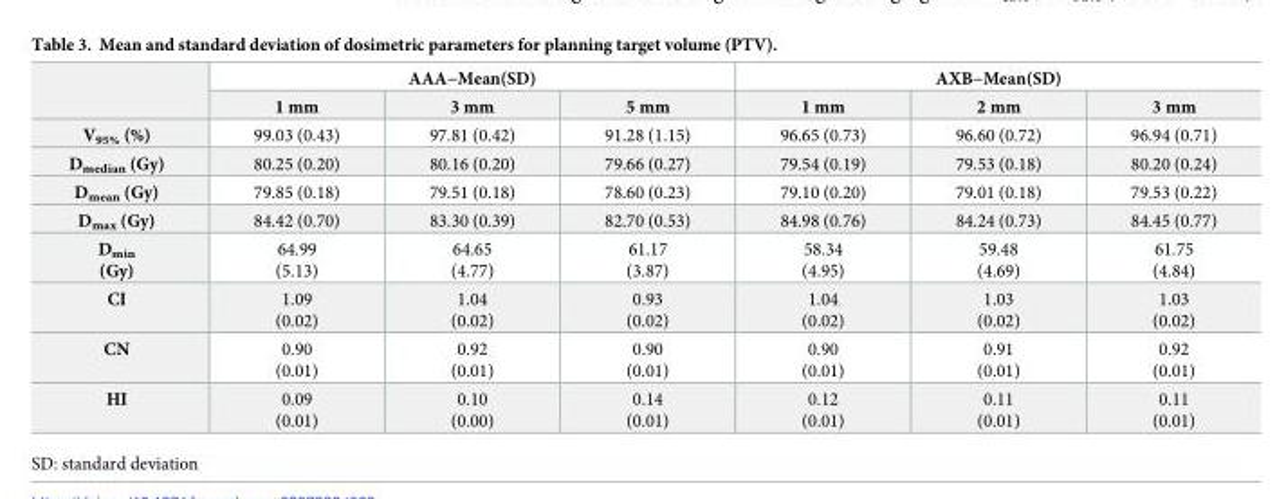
<table><thead><tr><td rowspan="2"></td><td colspan="3">AAA−Mean(SD)</td><td colspan="3">AXB−Mean(SD)</td></tr><tr><td>1 mm</td><td>3 mm</td><td>5 mm</td><td>1 mm</td><td>2 mm</td><td>3 mm</td></tr></thead><tbody><tr><td>V<sub>95%</sub> (%)</td><td>99.03 (0.43)</td><td>97.81 (0.42)</td><td>91.28 (1.15)</td><td>96.65 (0.73)</td><td>96.60 (0.72)</td><td>96.94 (0.71)</td></tr><tr><td>D<sub>median</sub> (Gy)</td><td>80.25 (0.20)</td><td>80.16 (0.20)</td><td>79.66 (0.27)</td><td>79.54 (0.19)</td><td>79.53 (0.18)</td><td>80.20 (0.24)</td></tr><tr><td>D<sub>mean</sub> (Gy)</td><td>79.85 (0.18)</td><td>79.51 (0.18)</td><td>78.60 (0.23)</td><td>79.10 (0.20)</td><td>79.01 (0.18)</td><td>79.53 (0.22)</td></tr><tr><td>D<sub>max</sub> (Gy)</td><td>84.42 (0.70)</td><td>83.30 (0.39)</td><td>82.70 (0.53)</td><td>84.98 (0.76)</td><td>84.24 (0.73)</td><td>84.45 (0.77)</td></tr><tr><td>D<sub>min</sub> (Gy)</td><td>64.99 (5.13)</td><td>64.65 (4.77)</td><td>61.17 (3.87)</td><td>58.34 (4.95)</td><td>59.48 (4.69)</td><td>61.75 (4.84)</td></tr><tr><td>CI</td><td>1.09 (0.02)</td><td>1.04 (0.02)</td><td>0.93 (0.02)</td><td>1.04 (0.02)</td><td>1.03 (0.02)</td><td>1.03 (0.02)</td></tr><tr><td>CN</td><td>0.90 (0.01)</td><td>0.92 (0.01)</td><td>0.90 (0.01)</td><td>0.90 (0.01)</td><td>0.91 (0.01)</td><td>0.92 (0.01)</td></tr><tr><td>HI</td><td>0.09 (0.01)</td><td>0.10 (0.00)</td><td>0.14 (0.01)</td><td>0.12 (0.01)</td><td>0.11 (0.01)</td><td>0.11 (0.01)</td></tr></tbody></table>